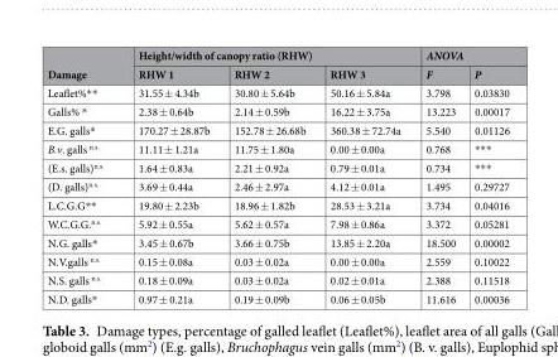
<table><thead><tr><td rowspan="2">Damage</td><td colspan="3">Height/width of canopy ratio (RHW)</td><td colspan="2">ANOVA</td></tr><tr><td>RHW 1</td><td>RHW 2</td><td>RHW 3</td><td>F</td><td>P</td></tr></thead><tbody><tr><td>Leaflet%**</td><td>31.55 ± 4.34b</td><td>30.80 ± 5.64b</td><td>50.16 ± 5.84a</td><td>3.798</td><td>0.03830</td></tr><tr><td>Galls% *</td><td>2.38 ± 0.64b</td><td>2.14 ± 0.59b</td><td>16.22 ± 3.75a</td><td>13.223</td><td>0.00017</td></tr><tr><td>E.G. galls*</td><td>170.27 ± 28.87b</td><td>152.78 ± 26.68b</td><td>360.38 ± 72.74a</td><td>5.540</td><td>0.01126</td></tr><tr><td>B.v. galls <sup>n.s.</sup></td><td>11.11 ± 1.21a</td><td>11.75 ± 1.80a</td><td>0.00 ± 0.00a</td><td>0.768</td><td>***</td></tr><tr><td>(E.s. galls)<sup>n.s.</sup></td><td>1.64 ± 0.83a</td><td>2.21 ± 0.92a</td><td>0.79 ± 0.01a</td><td>0.734</td><td>***</td></tr><tr><td>(D. galls)<sup>n.s.</sup></td><td>3.69 ± 0.44a</td><td>2.46 ± 2.97a</td><td>4.12 ± 0.01a</td><td>1.495</td><td>0.29727</td></tr><tr><td>L.C.G.G**</td><td>19.80 ± 2.23b</td><td>18.96 ± 1.82b</td><td>28.53 ± 3.21a</td><td>3.734</td><td>0.04016</td></tr><tr><td>W.C.G.G.<sup>n.s.</sup></td><td>5.92 ± 0.55a</td><td>5.62 ± 0.57a</td><td>7.98 ± 0.86a</td><td>3.372</td><td>0.05281</td></tr><tr><td>N.G. galls*</td><td>3.45 ± 0.67b</td><td>3.66 ± 0.75b</td><td>13.85 ± 2.20a</td><td>18.500</td><td>0.00002</td></tr><tr><td>N.V.galls <sup>n.s.</sup></td><td>0.15 ± 0.08a</td><td>0.03 ± 0.02a</td><td>0.00 ± 0.00a</td><td>2.559</td><td>0.10022</td></tr><tr><td>N.S. galls <sup>n.s.</sup></td><td>0.18 ± 0.09a</td><td>0.03 ± 0.02a</td><td>0.02 ± 0.01a</td><td>2.388</td><td>0.11518</td></tr><tr><td>N.D. galls*</td><td>0.97 ± 0.21a</td><td>0.19 ± 0.09b</td><td>0.06 ± 0.05b</td><td>11.616</td><td>0.00036</td></tr></tbody></table>